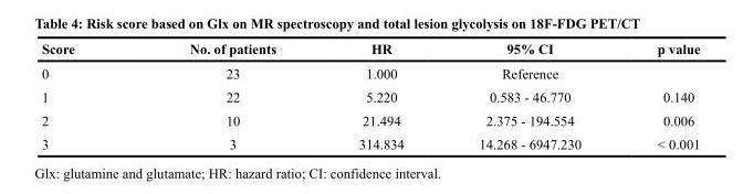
<table><thead><tr><td>Score</td><td>No. of patients</td><td>HR</td><td>95% CI</td><td>p value</td></tr></thead><tbody><tr><td>0</td><td>23</td><td>1.000</td><td>Reference</td><td></td></tr><tr><td>1</td><td>22</td><td>5.220</td><td>0.583 - 46.770</td><td>0.140</td></tr><tr><td>2</td><td>10</td><td>21.494</td><td>2.375 - 194.554</td><td>0.006</td></tr><tr><td>3</td><td>3</td><td>314.834</td><td>14.268 - 6947.230</td><td>&lt; 0.001</td></tr></tbody></table>